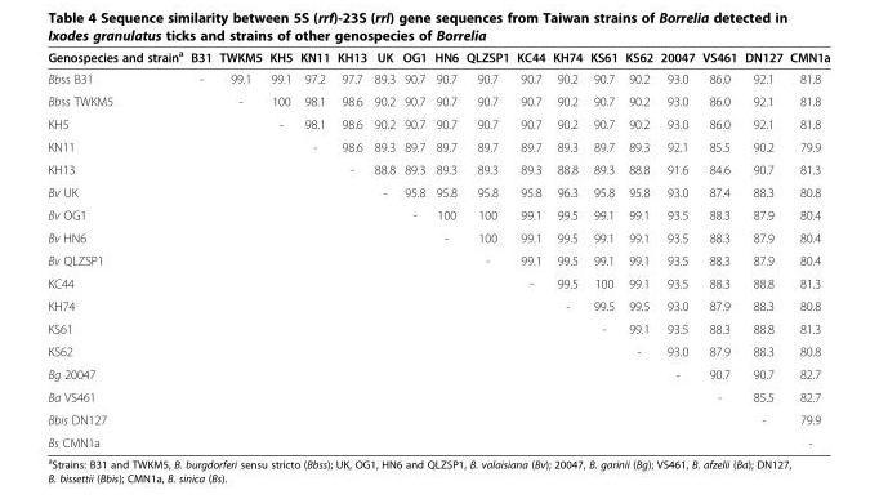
<table><thead><tr><td>Genospecies and strain<sup>a</sup></td><td>B31</td><td>TWKM5</td><td>KH5</td><td>KN11</td><td>KH13</td><td>UK</td><td>OG1</td><td>HN6</td><td>QLZSP1</td><td>KC44</td><td>KH74</td><td>KS61</td><td>KS62</td><td>20047</td><td>VS461</td><td>DN127</td><td>CMN1a</td></tr></thead><tbody><tr><td>Bbss B31</td><td>-</td><td>99.1</td><td>99.1</td><td>97.2</td><td>97.7</td><td>89.3</td><td>90.7</td><td>90.7</td><td>90.7</td><td>90.7</td><td>90.2</td><td>90.7</td><td>90.2</td><td>93.0</td><td>86.0</td><td>92.1</td><td>81.8</td></tr><tr><td>Bbss TWKM5</td><td></td><td>-</td><td>100</td><td>98.1</td><td>98.6</td><td>90.2</td><td>90.7</td><td>90.7</td><td>90.7</td><td>90.7</td><td>90.2</td><td>90.7</td><td>90.2</td><td>93.0</td><td>86.0</td><td>92.1</td><td>81.8</td></tr><tr><td>KH5</td><td></td><td></td><td>-</td><td>98.1</td><td>98.6</td><td>90.2</td><td>90.7</td><td>90.7</td><td>90.7</td><td>90.7</td><td>90.2</td><td>90.7</td><td>90.2</td><td>93.0</td><td>86.0</td><td>92.1</td><td>81.8</td></tr><tr><td>KN11</td><td></td><td></td><td></td><td>-</td><td>98.6</td><td>89.3</td><td>89.7</td><td>89.7</td><td>89.7</td><td>89.7</td><td>89.3</td><td>89.7</td><td>89.3</td><td>92.1</td><td>85.5</td><td>90.2</td><td>79.9</td></tr><tr><td>KH13</td><td></td><td></td><td></td><td></td><td>-</td><td>88.8</td><td>89.3</td><td>89.3</td><td>89.3</td><td>89.3</td><td>88.8</td><td>89.3</td><td>88.8</td><td>91.6</td><td>84.6</td><td>90.7</td><td>81.3</td></tr><tr><td>Bv UK</td><td></td><td></td><td></td><td></td><td></td><td>-</td><td>95.8</td><td>95.8</td><td>95.8</td><td>95.8</td><td>96.3</td><td>95.8</td><td>95.8</td><td>93.0</td><td>87.4</td><td>88.3</td><td>80.8</td></tr><tr><td>Bv OG1</td><td></td><td></td><td></td><td></td><td></td><td></td><td>-</td><td>100</td><td>100</td><td>99.1</td><td>99.5</td><td>99.1</td><td>99.1</td><td>93.5</td><td>88.3</td><td>87.9</td><td>80.4</td></tr><tr><td>Bv HN6</td><td></td><td></td><td></td><td></td><td></td><td></td><td></td><td>-</td><td>100</td><td>99.1</td><td>99.5</td><td>99.1</td><td>99.1</td><td>93.5</td><td>88.3</td><td>87.9</td><td>80.4</td></tr><tr><td>Bv QLZSP1</td><td></td><td></td><td></td><td></td><td></td><td></td><td></td><td></td><td>-</td><td>99.1</td><td>99.5</td><td>99.1</td><td>99.1</td><td>93.5</td><td>88.3</td><td>87.9</td><td>80.4</td></tr><tr><td>KC44</td><td></td><td></td><td></td><td></td><td></td><td></td><td></td><td></td><td></td><td>-</td><td>99.5</td><td>100</td><td>99.1</td><td>93.5</td><td>88.3</td><td>88.8</td><td>81.3</td></tr><tr><td>KH74</td><td></td><td></td><td></td><td></td><td></td><td></td><td></td><td></td><td></td><td></td><td>-</td><td>99.5</td><td>99.5</td><td>93.0</td><td>87.9</td><td>88.3</td><td>80.8</td></tr><tr><td>KS61</td><td></td><td></td><td></td><td></td><td></td><td></td><td></td><td></td><td></td><td></td><td></td><td>-</td><td>99.1</td><td>93.5</td><td>88.3</td><td>88.8</td><td>81.3</td></tr><tr><td>KS62</td><td></td><td></td><td></td><td></td><td></td><td></td><td></td><td></td><td></td><td></td><td></td><td></td><td>-</td><td>93.0</td><td>87.9</td><td>88.3</td><td>80.8</td></tr><tr><td>Bg 20047</td><td></td><td></td><td></td><td></td><td></td><td></td><td></td><td></td><td></td><td></td><td></td><td></td><td></td><td>-</td><td>90.7</td><td>90.7</td><td>82.7</td></tr><tr><td>Ba VS461</td><td></td><td></td><td></td><td></td><td></td><td></td><td></td><td></td><td></td><td></td><td></td><td></td><td></td><td></td><td>-</td><td>85.5</td><td>82.7</td></tr><tr><td>Bbis DN127</td><td></td><td></td><td></td><td></td><td></td><td></td><td></td><td></td><td></td><td></td><td></td><td></td><td></td><td></td><td></td><td>-</td><td>79.9</td></tr><tr><td>Bs CMN1a</td><td></td><td></td><td></td><td></td><td></td><td></td><td></td><td></td><td></td><td></td><td></td><td></td><td></td><td></td><td></td><td></td><td>-</td></tr></tbody></table>